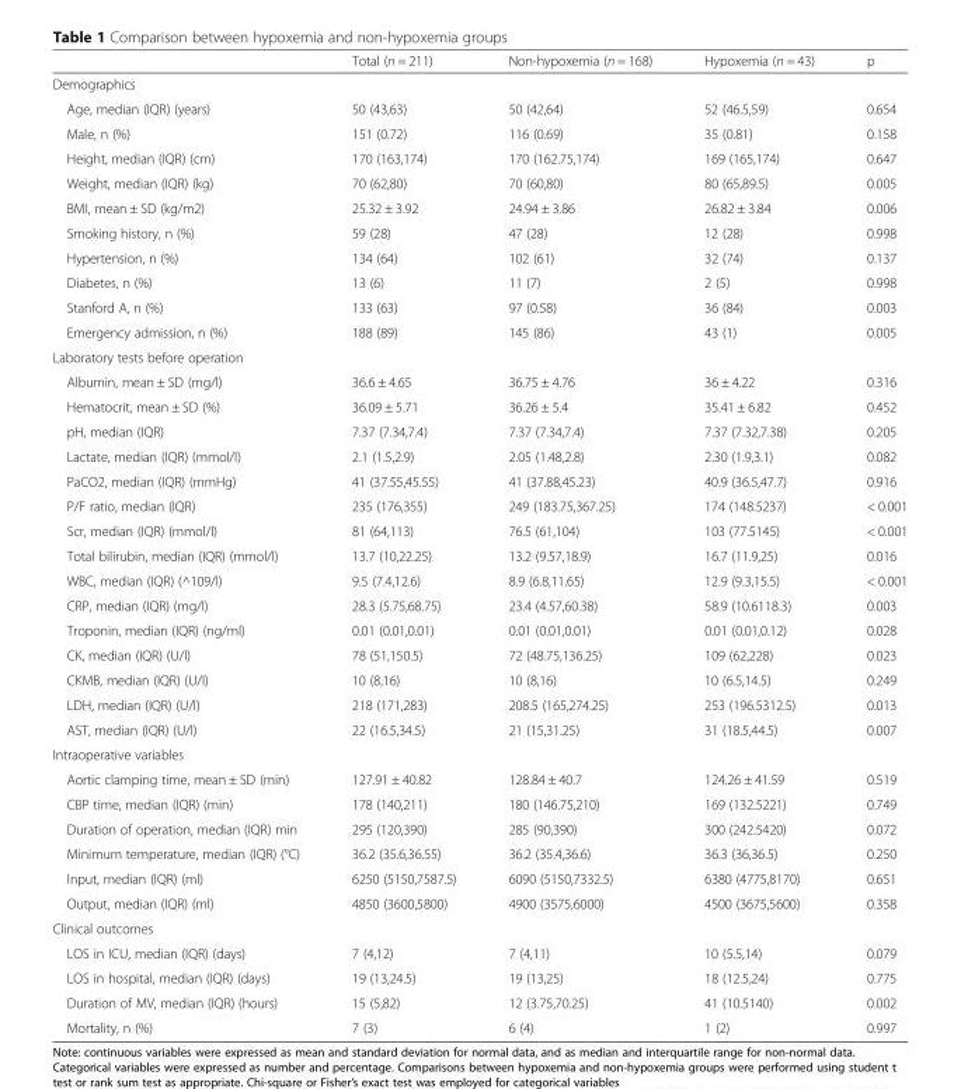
<table><thead><tr><td></td><td>Total (n = 211)</td><td>Non-hypoxemia (n = 168)</td><td>Hypoxemia (n = 43)</td><td>p</td></tr></thead><tbody><tr><td colspan="5">Demographics</td></tr><tr><td>Age, median (IQR) (years)</td><td>50 (43,63)</td><td>50 (42,64)</td><td>52 (46.5,59)</td><td>0.654</td></tr><tr><td>Male, n (%)</td><td>151 (0.72)</td><td>116 (0.69)</td><td>35 (0.81)</td><td>0.158</td></tr><tr><td>Height, median (IQR) (cm)</td><td>170 (163,174)</td><td>170 (162.75,174)</td><td>169 (165,174)</td><td>0.647</td></tr><tr><td>Weight, median (IQR) (kg)</td><td>70 (62,80)</td><td>70 (60,80)</td><td>80 (65,89.5)</td><td>0.005</td></tr><tr><td>BMI, mean ± SD (kg/m2)</td><td>25.32 ± 3.92</td><td>24.94 ± 3.86</td><td>26.82 ± 3.84</td><td>0.006</td></tr><tr><td>Smoking history, n (%)</td><td>59 (28)</td><td>47 (28)</td><td>12 (28)</td><td>0.998</td></tr><tr><td>Hypertension, n (%)</td><td>134 (64)</td><td>102 (61)</td><td>32 (74)</td><td>0.137</td></tr><tr><td>Diabetes, n (%)</td><td>13 (6)</td><td>11 (7)</td><td>2 (5)</td><td>0.998</td></tr><tr><td>Stanford A, n (%)</td><td>133 (63)</td><td>97 (0.58)</td><td>36 (84)</td><td>0.003</td></tr><tr><td>Emergency admission, n (%)</td><td>188 (89)</td><td>145 (86)</td><td>43 (1)</td><td>0.005</td></tr><tr><td colspan="5">Laboratory tests before operation</td></tr><tr><td>Albumin, mean ± SD (mg/l)</td><td>36.6 ± 4.65</td><td>36.75 ± 4.76</td><td>36 ± 4.22</td><td>0.316</td></tr><tr><td>Hematocrit, mean ± SD (%)</td><td>36.09 ± 5.71</td><td>36.26 ± 5.4</td><td>35.41 ± 6.82</td><td>0.452</td></tr><tr><td>pH, median (IQR)</td><td>7.37 (7.34,7.4)</td><td>7.37 (7.34,7.4)</td><td>7.37 (7.32,7.38)</td><td>0.205</td></tr><tr><td>Lactate, median (IQR) (mmol/l)</td><td>2.1 (1.5,2.9)</td><td>2.05 (1.48,2.8)</td><td>2.30 (1.9,3.1)</td><td>0.082</td></tr><tr><td>PaCO2, median (IQR) (mmHg)</td><td>41 (37.55,45.55)</td><td>41 (37.88,45.23)</td><td>40.9 (36.5,47.7)</td><td>0.916</td></tr><tr><td>P/F ratio, median (IQR)</td><td>235 (176,355)</td><td>249 (183.75,367.25)</td><td>174 (148.5237)</td><td>&lt; 0.001</td></tr><tr><td>Scr, median (IQR) (mmol/l)</td><td>81 (64,113)</td><td>76.5 (61,104)</td><td>103 (77.5145)</td><td>&lt; 0.001</td></tr><tr><td>Total bilirubin, median (IQR) (mmol/l)</td><td>13.7 (10,22.25)</td><td>13.2 (9.57,18.9)</td><td>16.7 (11.9,25)</td><td>0.016</td></tr><tr><td>WBC, median (IQR) (^109/l)</td><td>9.5 (7.4,12.6)</td><td>8.9 (6.8,11.65)</td><td>12.9 (9.3,15.5)</td><td>&lt; 0.001</td></tr><tr><td>CRP, median (IQR) (mg/l)</td><td>28.3 (5.75,68.75)</td><td>23.4 (4.57,60.38)</td><td>58.9 (10.6118.3)</td><td>0.003</td></tr><tr><td>Troponin, median (IQR) (ng/ml)</td><td>0.01 (0.01,0.01)</td><td>0.01 (0.01,0.01)</td><td>0.01 (0.01,0.12)</td><td>0.028</td></tr><tr><td>CK, median (IQR) (U/l)</td><td>78 (51,150.5)</td><td>72 (48.75,136.25)</td><td>109 (62,228)</td><td>0.023</td></tr><tr><td>CKMB, median (IQR) (U/l)</td><td>10 (8,16)</td><td>10 (8,16)</td><td>10 (6.5,14.5)</td><td>0.249</td></tr><tr><td>LDH, median (IQR) (U/l)</td><td>218 (171,283)</td><td>208.5 (165,274.25)</td><td>253 (196.5312.5)</td><td>0.013</td></tr><tr><td>AST, median (IQR) (U/l)</td><td>22 (16.5,34.5)</td><td>21 (15,31.25)</td><td>31 (18.5,44.5)</td><td>0.007</td></tr><tr><td colspan="5">Intraoperative variables</td></tr><tr><td>Aortic clamping time, mean ± SD (min)</td><td>127.91 ± 40.82</td><td>128.84 ± 40.7</td><td>124.26 ± 41.59</td><td>0.519</td></tr><tr><td>CBP time, median (IQR) (min)</td><td>178 (140,211)</td><td>180 (146.75,210)</td><td>169 (132.5221)</td><td>0.749</td></tr><tr><td>Duration of operation, median (IQR) min</td><td>295 (120,390)</td><td>285 (90,390)</td><td>300 (242.5420)</td><td>0.072</td></tr><tr><td>Minimum temperature, median (IQR) (°C)</td><td>36.2 (35.6,36.55)</td><td>36.2 (35.4,36.6)</td><td>36.3 (36,36.5)</td><td>0.250</td></tr><tr><td>Input, median (IQR) (ml)</td><td>6250 (5150,7587.5)</td><td>6090 (5150,7332.5)</td><td>6380 (4775,8170)</td><td>0.651</td></tr><tr><td>Output, median (IQR) (ml)</td><td>4850 (3600,5800)</td><td>4900 (3575,6000)</td><td>4500 (3675,5600)</td><td>0.358</td></tr><tr><td colspan="5">Clinical outcomes</td></tr><tr><td>LOS in ICU, median (IQR) (days)</td><td>7 (4,12)</td><td>7 (4,11)</td><td>10 (5.5,14)</td><td>0.079</td></tr><tr><td>LOS in hospital, median (IQR) (days)</td><td>19 (13,24.5)</td><td>19 (13,25)</td><td>18 (12.5,24)</td><td>0.775</td></tr><tr><td>Duration of MV, median (IQR) (hours)</td><td>15 (5,82)</td><td>12 (3.75,70.25)</td><td>41 (10.5140)</td><td>0.002</td></tr><tr><td>Mortality, n (%)</td><td>7 (3)</td><td>6 (4)</td><td>1 (2)</td><td>0.997</td></tr></tbody></table>